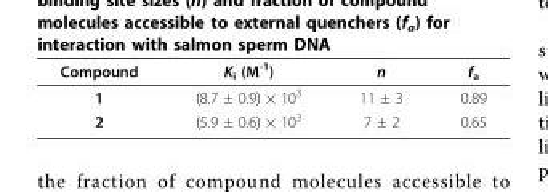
<table><thead><tr><td>Compound</td><td>K<sub>i</sub> (M<sup>-1</sup>)</td><td>n</td><td>f<sub>a</sub></td></tr></thead><tbody><tr><td>1</td><td>(8.7 ± 0.9) × 10<sup>3</sup></td><td>11 ± 3</td><td>0.89</td></tr><tr><td>2</td><td>(5.9 ± 0.6) × 10<sup>3</sup></td><td>7 ± 2</td><td>0.65</td></tr></tbody></table>